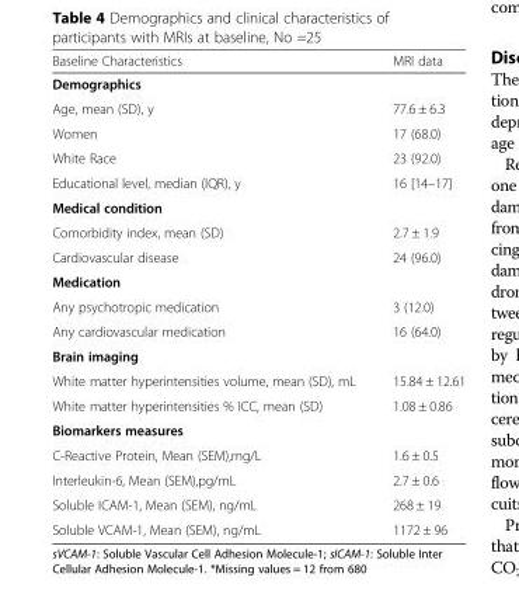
<table><thead><tr><td>Baseline Characteristics</td><td>MRI data</td></tr></thead><tbody><tr><td colspan="2">Demographics</td></tr><tr><td>Age, mean (SD), y</td><td>77.6 ± 6.3</td></tr><tr><td>Women</td><td>17 (68.0)</td></tr><tr><td>White Race</td><td>23 (92.0)</td></tr><tr><td>Educational level, median (IQR), y</td><td>16 [14–17]</td></tr><tr><td colspan="2">Medical condition</td></tr><tr><td>Comorbidity index, mean (SD)</td><td>2.7 ± 1.9</td></tr><tr><td>Cardiovascular disease</td><td>24 (96.0)</td></tr><tr><td colspan="2">Medication</td></tr><tr><td>Any psychotropic medication</td><td>3 (12.0)</td></tr><tr><td>Any cardiovascular medication</td><td>16 (64.0)</td></tr><tr><td colspan="2">Brain imaging</td></tr><tr><td>White matter hyperintensities volume, mean (SD), mL</td><td>15.84 ± 12.61</td></tr><tr><td>White matter hyperintensities % ICC, mean (SD)</td><td>1.08 ± 0.86</td></tr><tr><td colspan="2">Biomarkers measures</td></tr><tr><td>C-Reactive Protein, Mean (SEM),mg/L</td><td>1.6 ± 0.5</td></tr><tr><td>Interleukin-6, Mean (SEM),pg/mL</td><td>2.7 ± 0.6</td></tr><tr><td>Soluble ICAM-1, Mean (SEM), ng/mL</td><td>268 ± 19</td></tr><tr><td>Soluble VCAM-1, Mean (SEM), ng/mL</td><td>1172 ± 96</td></tr></tbody></table>